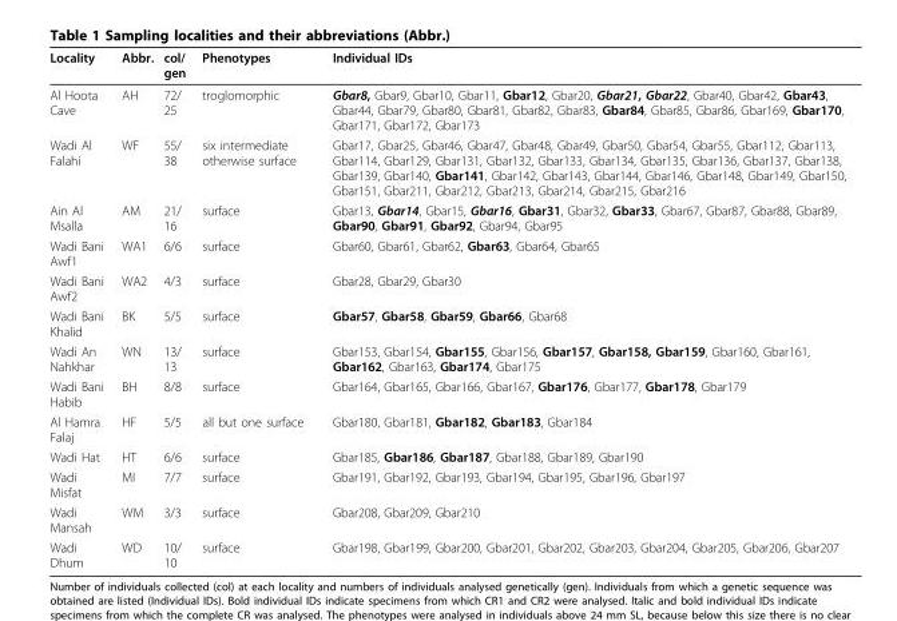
<table><thead><tr><td>Locality</td><td>Abbr.</td><td>col/ gen</td><td>Phenotypes</td><td>Individual IDs</td></tr></thead><tbody><tr><td>Al Hoota Cave</td><td>AH</td><td>72/ 25</td><td>troglomorphic</td><td>Gbar8, Gbar9, Gbar10, Gbar11, Gbar12, Gbar20, Gbar21, Gbar22, Gbar40, Gbar42, Gbar43, Gbar44, Gbar79, Gbar80, Gbar81, Gbar82, Gbar83, Gbar84, Gbar85, Gbar86, Gbar169, Gbar170, Gbar171, Gbar172, Gbar173</td></tr><tr><td>Wadi Al Falahi</td><td>WF</td><td>55/ 38</td><td>six intermediate otherwise surface</td><td>Gbar17, Gbar25, Gbar46, Gbar47, Gbar48, Gbar49, Gbar50, Gbar54, Gbar55, Gbar112, Gbar113, Gbar114, Gbar129, Gbar131, Gbar132, Gbar133, Gbar134, Gbar135, Gbar136, Gbar137, Gbar138, Gbar139, Gbar140, Gbar141, Gbar142, Gbar143, Gbar144, Gbar146, Gbar148, Gbar149, Gbar150, Gbar151, Gbar211, Gbar212, Gbar213, Gbar214, Gbar215, Gbar216</td></tr><tr><td>Ain Al Msalla</td><td>AM</td><td>21/ 16</td><td>surface</td><td>Gbar13, Gbar14, Gbar15, Gbar16, Gbar31, Gbar32, Gbar33, Gbar67, Gbar87, Gbar88, Gbar89, Gbar90, Gbar91, Gbar92, Gbar94, Gbar95</td></tr><tr><td>Wadi Bani Awf1</td><td>WA1</td><td>6/6</td><td>surface</td><td>Gbar60, Gbar61, Gbar62, Gbar63, Gbar64, Gbar65</td></tr><tr><td>Wadi Bani Awf2</td><td>WA2</td><td>4/3</td><td>surface</td><td>Gbar28, Gbar29, Gbar30</td></tr><tr><td>Wadi Bani Khalid</td><td>BK</td><td>5/5</td><td>surface</td><td>Gbar57, Gbar58, Gbar59, Gbar66, Gbar68</td></tr><tr><td>Wadi An Nahkhar</td><td>WN</td><td>13/ 13</td><td>surface</td><td>Gbar153, Gbar154, Gbar155, Gbar156, Gbar157, Gbar158, Gbar159, Gbar160, Gbar161, Gbar162, Gbar163, Gbar174, Gbar175</td></tr><tr><td>Wadi Bani Habib</td><td>BH</td><td>8/8</td><td>surface</td><td>Gbar164, Gbar165, Gbar166, Gbar167, Gbar176, Gbar177, Gbar178, Gbar179</td></tr><tr><td>Al Hamra Falaj</td><td>HF</td><td>5/5</td><td>all but one surface</td><td>Gbar180, Gbar181, Gbar182, Gbar183, Gbar184</td></tr><tr><td>Wadi Hat</td><td>HT</td><td>6/6</td><td>surface</td><td>Gbar185, Gbar186, Gbar187, Gbar188, Gbar189, Gbar190</td></tr><tr><td>Wadi Misfat</td><td>MI</td><td>7/7</td><td>surface</td><td>Gbar191, Gbar192, Gbar193, Gbar194, Gbar195, Gbar196, Gbar197</td></tr><tr><td>Wadi Mansah</td><td>WM</td><td>3/3</td><td>surface</td><td>Gbar208, Gbar209, Gbar210</td></tr><tr><td>Wadi Dhum</td><td>WD</td><td>10/ 10</td><td>surface</td><td>Gbar198, Gbar199, Gbar200, Gbar201, Gbar202, Gbar203, Gbar204, Gbar205, Gbar206, Gbar207</td></tr></tbody></table>